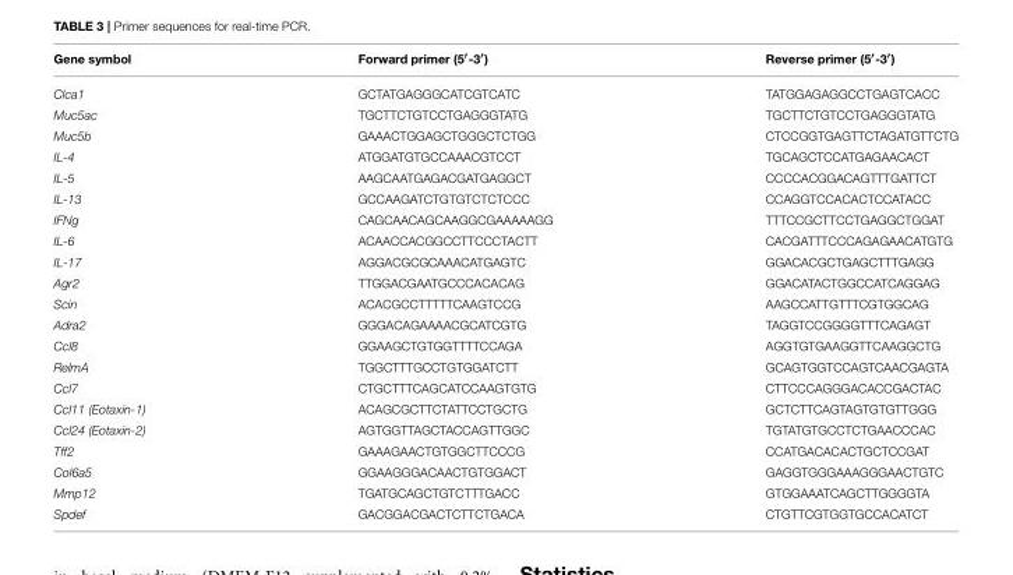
<table><thead><tr><td>Gene symbol</td><td>Forward primer (5′-3′)</td><td>Reverse primer (5′-3′)</td></tr></thead><tbody><tr><td>Clca1</td><td>GCTATGAGGGCATCGTCATC</td><td>TATGGAGAGGCCTGAGTCACC</td></tr><tr><td>Muc5ac</td><td>TGCTTCTGTCCTGAGGGTATG</td><td>TGCTTCTGTCCTGAGGGTATG</td></tr><tr><td>Muc5b</td><td>GAAACTGGAGCTGGGCTCTGG</td><td>CTCCGGTGAGTTCTAGATGTTCTG</td></tr><tr><td>IL-4</td><td>ATGGATGTGCCAAACGTCCT</td><td>TGCAGCTCCATGAGAACACT</td></tr><tr><td>IL-5</td><td>AAGCAATGAGACGATGAGGCT</td><td>CCCCACGGACAGTTTGATTCT</td></tr><tr><td>IL-13</td><td>GCCAAGATCTGTGTCTCTCCC</td><td>CCAGGTCCACACTCCATACC</td></tr><tr><td>IFNg</td><td>CAGCAACAGCAAGGCGAAAAAGG</td><td>TTTCCGCTTCCTGAGGCTGGAT</td></tr><tr><td>IL-6</td><td>ACAACCACGGCCTTCCCTACTT</td><td>CACGATTTCCCAGAGAACATGTG</td></tr><tr><td>IL-17</td><td>AGGACGCGCAAACATGAGTC</td><td>GGACACGCTGAGCTTTGAGG</td></tr><tr><td>Agr2</td><td>TTGGACGAATGCCCACACAG</td><td>GGACATACTGGCCATCAGGAG</td></tr><tr><td>Scin</td><td>ACACGCCTTTTTCAAGTCCG</td><td>AAGCCATTGTTTCGTGGCAG</td></tr><tr><td>Adra2</td><td>GGGACAGAAAACGCATCGTG</td><td>TAGGTCCGGGGTTTCAGAGT</td></tr><tr><td>Ccl8</td><td>GGAAGCTGTGGTTTTCCAGA</td><td>AGGTGTGAAGGTTCAAGGCTG</td></tr><tr><td>RelmA</td><td>TGGCTTTGCCTGTGGATCTT</td><td>GCAGTGGTCCAGTCAACGAGTA</td></tr><tr><td>Ccl7</td><td>CTGCTTTCAGCATCCAAGTGTG</td><td>CTTCCCAGGGACACCGACTAC</td></tr><tr><td>Ccl11 (Eotaxin-1)</td><td>ACAGCGCTTCTATTCCTGCTG</td><td>GCTCTTCAGTAGTGTGTTGGG</td></tr><tr><td>Ccl24 (Eotaxin-2)</td><td>AGTGGTTAGCTACCAGTTGGC</td><td>TGTATGTGCCTCTGAACCCAC</td></tr><tr><td>Tff2</td><td>GAAAGAACTGTGGCTTCCCG</td><td>CCATGACACACTGCTCCGAT</td></tr><tr><td>Col6a5</td><td>GGAAGGGACAACTGTGGACT</td><td>GAGGTGGGAAAGGGAACTGTC</td></tr><tr><td>Mmp12</td><td>TGATGCAGCTGTCTTTGACC</td><td>GTGGAAATCAGCTTGGGGTA</td></tr><tr><td>Spdef</td><td>GACGGACGACTCTTCTGACA</td><td>CTGTTCGTGGTGCCACATCT</td></tr></tbody></table>